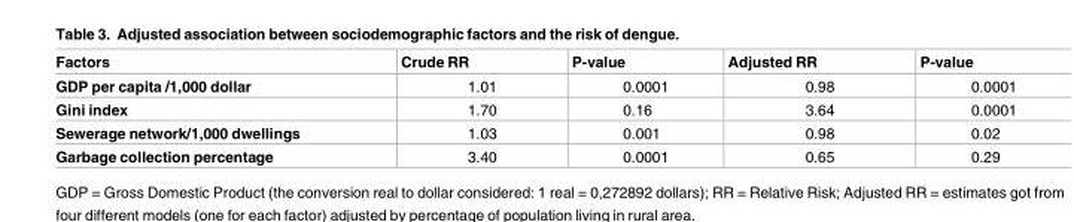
<table><thead><tr><td>Factors</td><td>Crude RR</td><td>P-value</td><td>Adjusted RR</td><td>P-value</td></tr></thead><tbody><tr><td>GDP per capita /1,000 dollar</td><td>1.01</td><td>0.0001</td><td>0.98</td><td>0.0001</td></tr><tr><td>Gini index</td><td>1.70</td><td>0.16</td><td>3.64</td><td>0.0001</td></tr><tr><td>Sewerage network/1,000 dwellings</td><td>1.03</td><td>0.001</td><td>0.98</td><td>0.02</td></tr><tr><td>Garbage collection percentage</td><td>3.40</td><td>0.0001</td><td>0.65</td><td>0.29</td></tr></tbody></table>